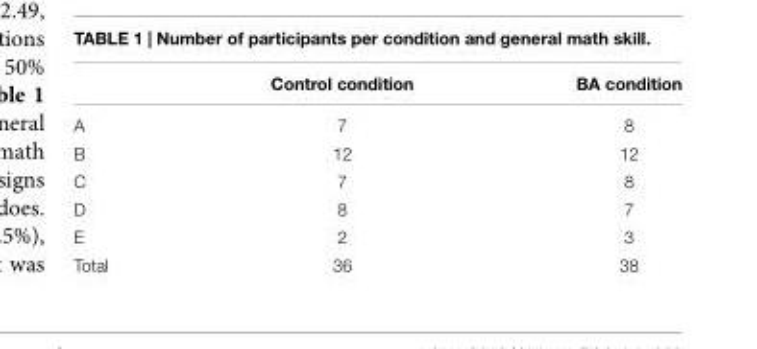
<table><thead><tr><td></td><td>Control condition</td><td>BA condition</td></tr></thead><tbody><tr><td>A</td><td>7</td><td>8</td></tr><tr><td>B</td><td>12</td><td>12</td></tr><tr><td>C</td><td>7</td><td>8</td></tr><tr><td>D</td><td>8</td><td>7</td></tr><tr><td>E</td><td>2</td><td>3</td></tr><tr><td>Total</td><td>36</td><td>38</td></tr></tbody></table>